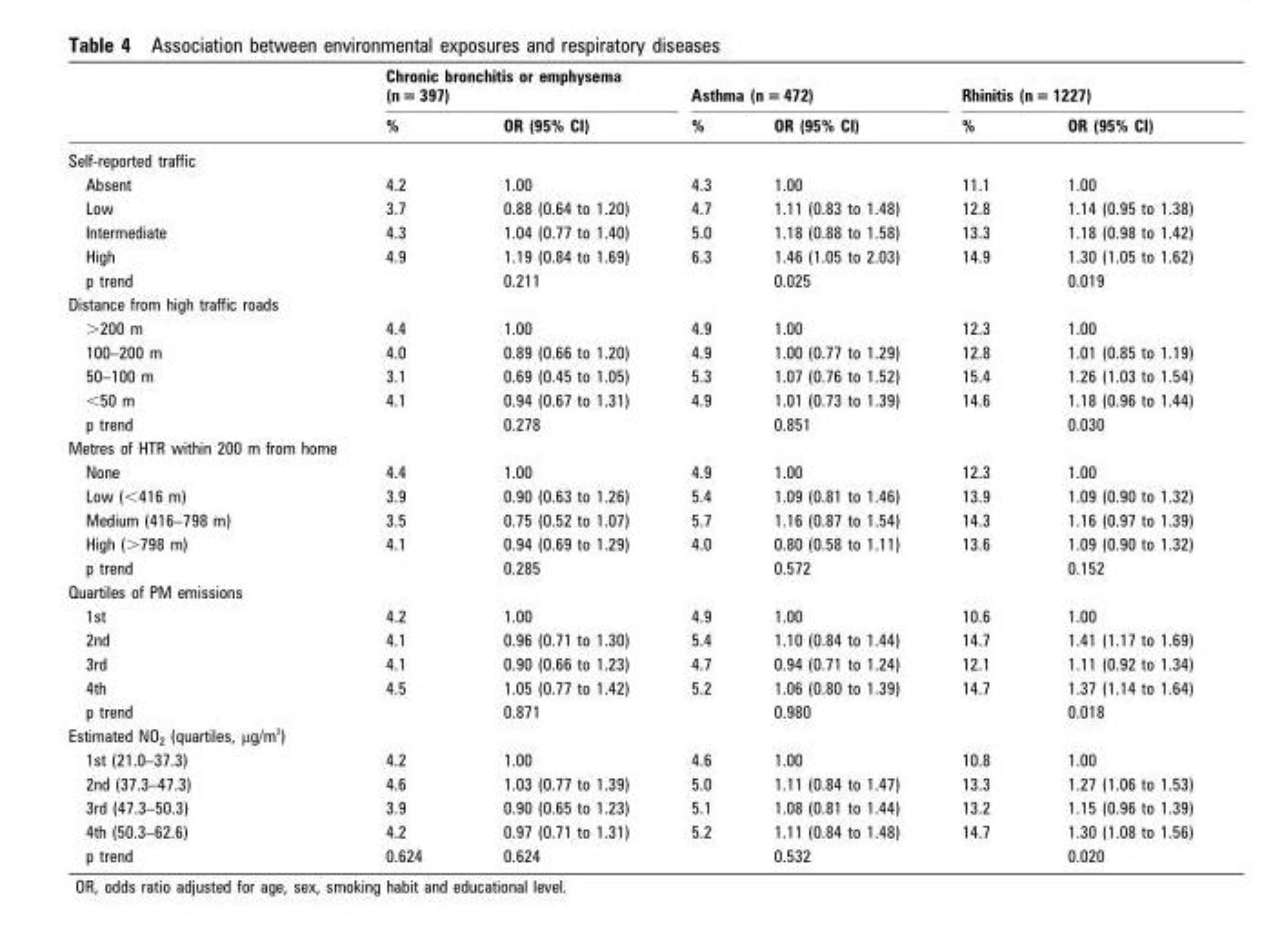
<table><thead><tr><td rowspan="2"></td><td colspan="2">Chronic bronchitis or emphysema (n = 397)</td><td colspan="2">Asthma (n = 472)</td><td colspan="2">Rhinitis (n = 1227)</td></tr><tr><td>%</td><td>OR (95% CI)</td><td>%</td><td>OR (95% CI)</td><td>%</td><td>OR (95% CI)</td></tr></thead><tbody><tr><td colspan="7">Self-reported traffic</td></tr><tr><td>Absent</td><td>4.2</td><td>1.00</td><td>4.3</td><td>1.00</td><td>11.1</td><td>1.00</td></tr><tr><td>Low</td><td>3.7</td><td>0.88 (0.64 to 1.20)</td><td>4.7</td><td>1.11 (0.83 to 1.48)</td><td>12.8</td><td>1.14 (0.95 to 1.38)</td></tr><tr><td>Intermediate</td><td>4.3</td><td>1.04 (0.77 to 1.40)</td><td>5.0</td><td>1.18 (0.88 to 1.58)</td><td>13.3</td><td>1.18 (0.98 to 1.42)</td></tr><tr><td>High</td><td>4.9</td><td>1.19 (0.84 to 1.69)</td><td>6.3</td><td>1.46 (1.05 to 2.03)</td><td>14.9</td><td>1.30 (1.05 to 1.62)</td></tr><tr><td>p trend</td><td></td><td>0.211</td><td></td><td>0.025</td><td></td><td>0.019</td></tr><tr><td colspan="7">Distance from high traffic roads</td></tr><tr><td>&gt;200 m</td><td>4.4</td><td>1.00</td><td>4.9</td><td>1.00</td><td>12.3</td><td>1.00</td></tr><tr><td>100–200 m</td><td>4.0</td><td>0.89 (0.66 to 1.20)</td><td>4.9</td><td>1.00 (0.77 to 1.29)</td><td>12.8</td><td>1.01 (0.85 to 1.19)</td></tr><tr><td>50–100 m</td><td>3.1</td><td>0.69 (0.45 to 1.05)</td><td>5.3</td><td>1.07 (0.76 to 1.52)</td><td>15.4</td><td>1.26 (1.03 to 1.54)</td></tr><tr><td>&lt;50 m</td><td>4.1</td><td>0.94 (0.67 to 1.31)</td><td>4.9</td><td>1.01 (0.73 to 1.39)</td><td>14.6</td><td>1.18 (0.96 to 1.44)</td></tr><tr><td>p trend</td><td></td><td>0.278</td><td></td><td>0.851</td><td></td><td>0.030</td></tr><tr><td colspan="7">Metres of HTR within 200 m from home</td></tr><tr><td>None</td><td>4.4</td><td>1.00</td><td>4.9</td><td>1.00</td><td>12.3</td><td>1.00</td></tr><tr><td>Low (&lt;416 m)</td><td>3.9</td><td>0.90 (0.63 to 1.26)</td><td>5.4</td><td>1.09 (0.81 to 1.46)</td><td>13.9</td><td>1.09 (0.90 to 1.32)</td></tr><tr><td>Medium (416–798 m)</td><td>3.5</td><td>0.75 (0.52 to 1.07)</td><td>5.7</td><td>1.16 (0.87 to 1.54)</td><td>14.3</td><td>1.16 (0.97 to 1.39)</td></tr><tr><td>High (&gt;798 m)</td><td>4.1</td><td>0.94 (0.69 to 1.29)</td><td>4.0</td><td>0.80 (0.58 to 1.11)</td><td>13.6</td><td>1.09 (0.90 to 1.32)</td></tr><tr><td>p trend</td><td></td><td>0.285</td><td></td><td>0.572</td><td></td><td>0.152</td></tr><tr><td colspan="7">Quartiles of PM emissions</td></tr><tr><td>1st</td><td>4.2</td><td>1.00</td><td>4.9</td><td>1.00</td><td>10.6</td><td>1.00</td></tr><tr><td>2nd</td><td>4.1</td><td>0.96 (0.71 to 1.30)</td><td>5.4</td><td>1.10 (0.84 to 1.44)</td><td>14.7</td><td>1.41 (1.17 to 1.69)</td></tr><tr><td>3rd</td><td>4.1</td><td>0.90 (0.66 to 1.23)</td><td>4.7</td><td>0.94 (0.71 to 1.24)</td><td>12.1</td><td>1.11 (0.92 to 1.34)</td></tr><tr><td>4th</td><td>4.5</td><td>1.05 (0.77 to 1.42)</td><td>5.2</td><td>1.06 (0.80 to 1.39)</td><td>14.7</td><td>1.37 (1.14 to 1.64)</td></tr><tr><td>p trend</td><td></td><td>0.871</td><td></td><td>0.980</td><td></td><td>0.018</td></tr><tr><td colspan="7">Estimated NO<sub>2</sub> (quartiles, μg/m <sup>3</sup>)</td></tr><tr><td>1st (21.0–37.3)</td><td>4.2</td><td>1.00</td><td>4.6</td><td>1.00</td><td>10.8</td><td>1.00</td></tr><tr><td>2nd (37.3–47.3)</td><td>4.6</td><td>1.03 (0.77 to 1.39)</td><td>5.0</td><td>1.11 (0.84 to 1.47)</td><td>13.3</td><td>1.27 (1.06 to 1.53)</td></tr><tr><td>3rd (47.3–50.3)</td><td>3.9</td><td>0.90 (0.65 to 1.23)</td><td>5.1</td><td>1.08 (0.81 to 1.44)</td><td>13.2</td><td>1.15 (0.96 to 1.39)</td></tr><tr><td>4th (50.3–62.6)</td><td>4.2</td><td>0.97 (0.71 to 1.31)</td><td>5.2</td><td>1.11 (0.84 to 1.48)</td><td>14.7</td><td>1.30 (1.08 to 1.56)</td></tr><tr><td>p trend</td><td>0.624</td><td>0.624</td><td></td><td>0.532</td><td></td><td>0.020</td></tr></tbody></table>